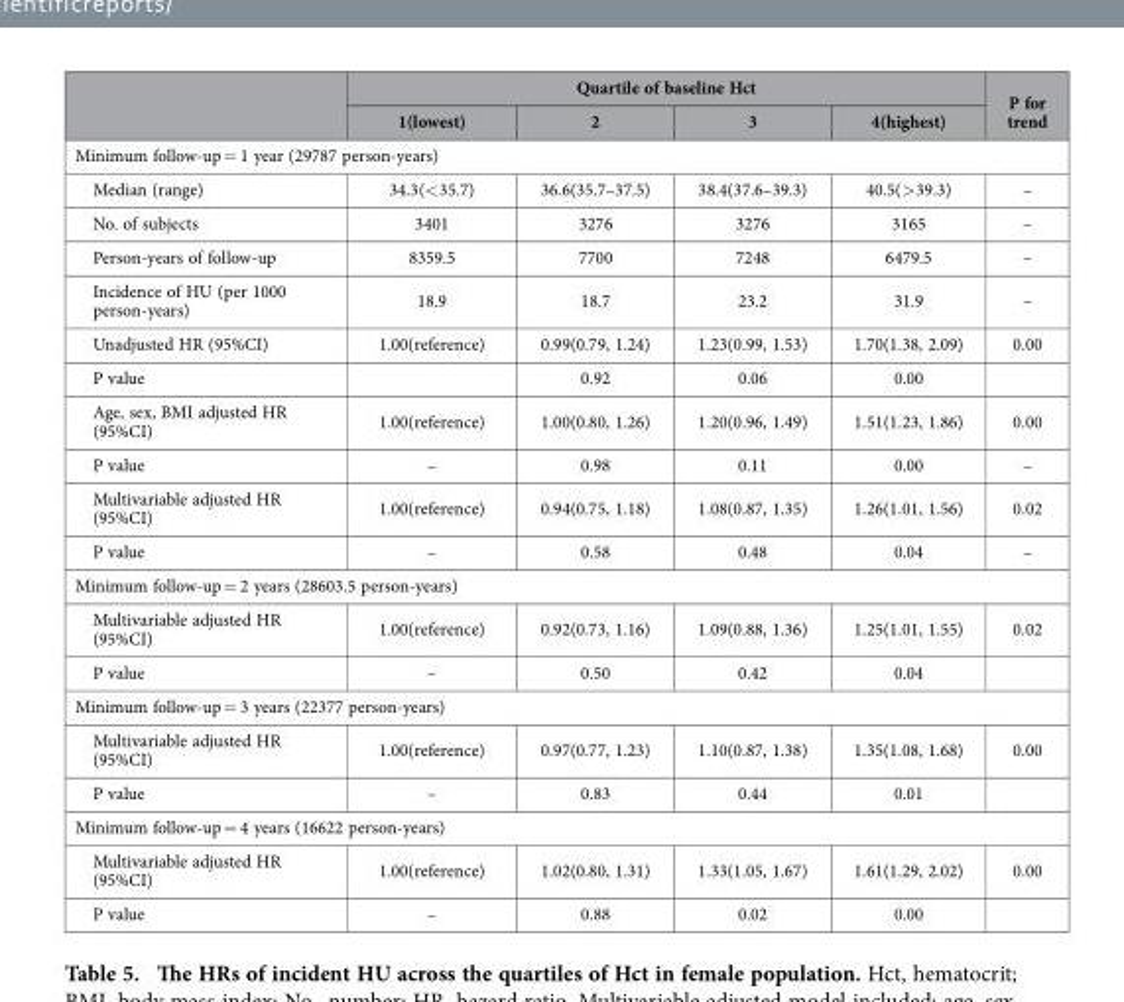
<table><thead><tr><td rowspan="2"></td><td colspan="4">Quartile of baseline Hct</td><td rowspan="2">P for trend</td></tr><tr><td>1(lowest)</td><td>2</td><td>3</td><td>4(highest)</td></tr></thead><tbody><tr><td colspan="6">Minimum follow-up = 1 year (29787 person-years)</td></tr><tr><td>Median (range)</td><td>34.3(&lt; 35.7)</td><td>36.6(35.7–37.5)</td><td>38.4(37.6–39.3)</td><td>40.5(&gt; 39.3)</td><td>–</td></tr><tr><td>No. of subjects</td><td>3401</td><td>3276</td><td>3276</td><td>3165</td><td>–</td></tr><tr><td>Person-years of follow-up</td><td>8359.5</td><td>7700</td><td>7248</td><td>6479.5</td><td>–</td></tr><tr><td>Incidence of HU (per 1000 person-years)</td><td>18.9</td><td>18.7</td><td>23.2</td><td>31.9</td><td>–</td></tr><tr><td>Unadjusted HR (95%CI)</td><td>1.00(reference)</td><td>0.99(0.79, 1.24)</td><td>1.23(0.99, 1.53)</td><td>1.70(1.38, 2.09)</td><td>0.00</td></tr><tr><td>P value</td><td></td><td>0.92</td><td>0.06</td><td>0.00</td><td></td></tr><tr><td>Age, sex, BMI adjusted HR (95%CI)</td><td>1.00(reference)</td><td>1.00(0.80, 1.26)</td><td>1.20(0.96, 1.49)</td><td>1.51(1.23, 1.86)</td><td>0.00</td></tr><tr><td>P value</td><td>–</td><td>0.98</td><td>0.11</td><td>0.00</td><td>–</td></tr><tr><td>Multivariable adjusted HR (95%CI)</td><td>1.00(reference)</td><td>0.94(0.75, 1.18)</td><td>1.08(0.87, 1.35)</td><td>1.26(1.01, 1.56)</td><td>0.02</td></tr><tr><td>P value</td><td>–</td><td>0.58</td><td>0.48</td><td>0.04</td><td>–</td></tr><tr><td colspan="6">Minimum follow-up = 2 years (28603.5 person-years)</td></tr><tr><td>Multivariable adjusted HR (95%CI)</td><td>1.00(reference)</td><td>0.92(0.73, 1.16)</td><td>1.09(0.88, 1.36)</td><td>1.25(1.01, 1.55)</td><td>0.02</td></tr><tr><td>P value</td><td>–</td><td>0.50</td><td>0.42</td><td>0.04</td><td></td></tr><tr><td colspan="6">Minimum follow-up = 3 years (22377 person-years)</td></tr><tr><td>Multivariable adjusted HR (95%CI)</td><td>1.00(reference)</td><td>0.97(0.77, 1.23)</td><td>1.10(0.87, 1.38)</td><td>1.35(1.08, 1.68)</td><td>0.00</td></tr><tr><td>P value</td><td>–</td><td>0.83</td><td>0.44</td><td>0.01</td><td></td></tr><tr><td colspan="6">Minimum follow-up = 4 years (16622 person-years)</td></tr><tr><td>Multivariable adjusted HR (95%CI)</td><td>1.00(reference)</td><td>1.02(0.80, 1.31)</td><td>1.33(1.05, 1.67)</td><td>1.61(1.29, 2.02)</td><td>0.00</td></tr><tr><td>P value</td><td>–</td><td>0.88</td><td>0.02</td><td>0.00</td><td></td></tr></tbody></table>